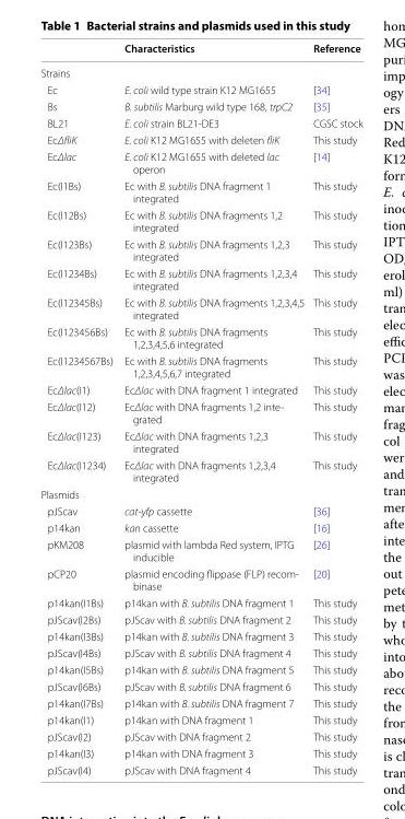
<table><thead><tr><td></td><td>Characteristics</td><td>Reference</td></tr></thead><tbody><tr><td colspan="3">Strains</td></tr><tr><td>Ec</td><td>E. coli wild type strain K12 MG1655</td><td>[34]</td></tr><tr><td>Bs</td><td>B. subtilis Marburg wild type 168, trpC2</td><td>[35]</td></tr><tr><td>BL21</td><td>E. coli strain BL21-DE3</td><td>CGSC stock</td></tr><tr><td>EcΔfliK</td><td>E. coli K12 MG1655 with deleten fliK</td><td>This study</td></tr><tr><td>EcΔlac</td><td>E. coli K12 MG1655 with deleted lac operon</td><td>[14]</td></tr><tr><td>Ec(I1Bs)</td><td>Ec with B. subtilis DNA fragment 1 integrated</td><td>This study</td></tr><tr><td>Ec(I12Bs)</td><td>Ec with B. subtilis DNA fragments 1,2 integrated</td><td>This study</td></tr><tr><td>Ec(I123Bs)</td><td>Ec with B. subtilis DNA fragments 1,2,3 integrated</td><td>This study</td></tr><tr><td>Ec(I1234Bs)</td><td>Ec with B. subtilis DNA fragments 1,2,3,4 integrated</td><td>This study</td></tr><tr><td>Ec(I12345Bs)</td><td>Ec with B. subtilis DNA fragments 1,2,3,4,5 integrated</td><td>This study</td></tr><tr><td>Ec(I123456Bs)</td><td>Ec with B. subtilis DNA fragments 1,2,3,4,5,6 integrated</td><td>This study</td></tr><tr><td>Ec(I1234567Bs)</td><td>Ec with B. subtilis DNA fragments 1,2,3,4,5,6,7 integrated</td><td>This study</td></tr><tr><td>EcΔlac(I1)</td><td>EcΔlac with DNA fragment 1 integrated</td><td>This study</td></tr><tr><td>EcΔlac(I12)</td><td>EcΔlac with DNA fragments 1,2 inte- grated</td><td>This study</td></tr><tr><td>EcΔlac(I123)</td><td>EcΔlac with DNA fragments 1,2,3 integrated</td><td>This study</td></tr><tr><td>EcΔlac(I1234)</td><td>EcΔlac with DNA fragments 1,2,3,4 integrated</td><td>This study</td></tr><tr><td colspan="3">Plasmids</td></tr><tr><td>pJScav</td><td>cat-yfp cassette</td><td>[36]</td></tr><tr><td>p14kan</td><td>kan cassette</td><td>[16]</td></tr><tr><td>pKM208</td><td>plasmid with lambda Red system, IPTG inducible</td><td>[26]</td></tr><tr><td>pCP20</td><td>plasmid encoding flippase (FLP) recom- binase</td><td>[20]</td></tr><tr><td>p14kan(I1Bs)</td><td>p14kan with B. subtilis DNA fragment 1</td><td>This study</td></tr><tr><td>pJScav(I2Bs)</td><td>pJScav with B. subtilis DNA fragment 2</td><td>This study</td></tr><tr><td>p14kan(I3Bs)</td><td>p14kan with B. subtilis DNA fragment 3</td><td>This study</td></tr><tr><td>pJScav(I4Bs)</td><td>pJScav with B. subtilis DNA fragment 4</td><td>This study</td></tr><tr><td>p14kan(I5Bs)</td><td>p14kan with B. subtilis DNA fragment 5</td><td>This study</td></tr><tr><td>pJScav(I6Bs)</td><td>pJScav with B. subtilis DNA fragment 6</td><td>This study</td></tr><tr><td>p14kan(I7Bs)</td><td>p14kan with B. subtilis DNA fragment 7</td><td>This study</td></tr><tr><td>p14kan(I1)</td><td>p14kan with DNA fragment 1</td><td>This study</td></tr><tr><td>pJScav(I2)</td><td>pJScav with DNA fragment 2</td><td>This study</td></tr><tr><td>p14kan(I3)</td><td>p14kan with DNA fragment 3</td><td>This study</td></tr><tr><td>pJScav(I4)</td><td>pJScav with DNA fragment 4</td><td>This study</td></tr></tbody></table>